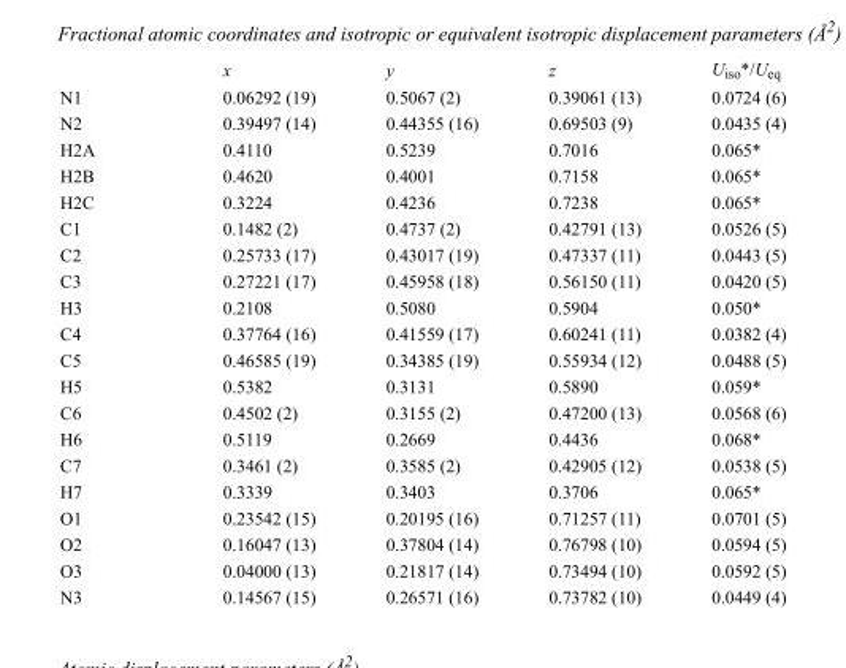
<table><thead><tr><td></td><td>x</td><td>y</td><td>z</td><td>U<sub>iso</sub>*/U<sub>eq</sub></td></tr></thead><tbody><tr><td>N1</td><td>0.06292 (19)</td><td>0.5067 (2)</td><td>0.39061 (13)</td><td>0.0724 (6)</td></tr><tr><td>N2</td><td>0.39497 (14)</td><td>0.44355 (16)</td><td>0.69503 (9)</td><td>0.0435 (4)</td></tr><tr><td>H2A</td><td>0.4110</td><td>0.5239</td><td>0.7016</td><td>0.065*</td></tr><tr><td>H2B</td><td>0.4620</td><td>0.4001</td><td>0.7158</td><td>0.065*</td></tr><tr><td>H2C</td><td>0.3224</td><td>0.4236</td><td>0.7238</td><td>0.065*</td></tr><tr><td>C1</td><td>0.1482 (2)</td><td>0.4737 (2)</td><td>0.42791 (13)</td><td>0.0526 (5)</td></tr><tr><td>C2</td><td>0.25733 (17)</td><td>0.43017 (19)</td><td>0.47337 (11)</td><td>0.0443 (5)</td></tr><tr><td>C3</td><td>0.27221 (17)</td><td>0.45958 (18)</td><td>0.56150 (11)</td><td>0.0420 (5)</td></tr><tr><td>H3</td><td>0.2108</td><td>0.5080</td><td>0.5904</td><td>0.050*</td></tr><tr><td>C4</td><td>0.37764 (16)</td><td>0.41559 (17)</td><td>0.60241 (11)</td><td>0.0382 (4)</td></tr><tr><td>C5</td><td>0.46585 (19)</td><td>0.34385 (19)</td><td>0.55934 (12)</td><td>0.0488 (5)</td></tr><tr><td>H5</td><td>0.5382</td><td>0.3131</td><td>0.5890</td><td>0.059*</td></tr><tr><td>C6</td><td>0.4502 (2)</td><td>0.3155 (2)</td><td>0.47200 (13)</td><td>0.0568 (6)</td></tr><tr><td>H6</td><td>0.5119</td><td>0.2669</td><td>0.4436</td><td>0.068*</td></tr><tr><td>C7</td><td>0.3461 (2)</td><td>0.3585 (2)</td><td>0.42905 (12)</td><td>0.0538 (5)</td></tr><tr><td>H7</td><td>0.3339</td><td>0.3403</td><td>0.3706</td><td>0.065*</td></tr><tr><td>O1</td><td>0.23542 (15)</td><td>0.20195 (16)</td><td>0.71257 (11)</td><td>0.0701 (5)</td></tr><tr><td>O2</td><td>0.16047 (13)</td><td>0.37804 (14)</td><td>0.76798 (10)</td><td>0.0594 (5)</td></tr><tr><td>O3</td><td>0.04000 (13)</td><td>0.21817 (14)</td><td>0.73494 (10)</td><td>0.0592 (5)</td></tr><tr><td>N3</td><td>0.14567 (15)</td><td>0.26571 (16)</td><td>0.73782 (10)</td><td>0.0449 (4)</td></tr></tbody></table>